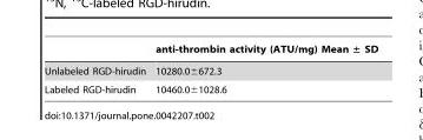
<table><thead><tr><td></td><td>anti-thrombin activity (ATU/mg) Mean ± SD</td></tr></thead><tbody><tr><td>Unlabeled RGD-hirudin</td><td>10280.0±672.3</td></tr><tr><td>Labeled RGD-hirudin</td><td>10460.0±1028.6</td></tr></tbody></table>